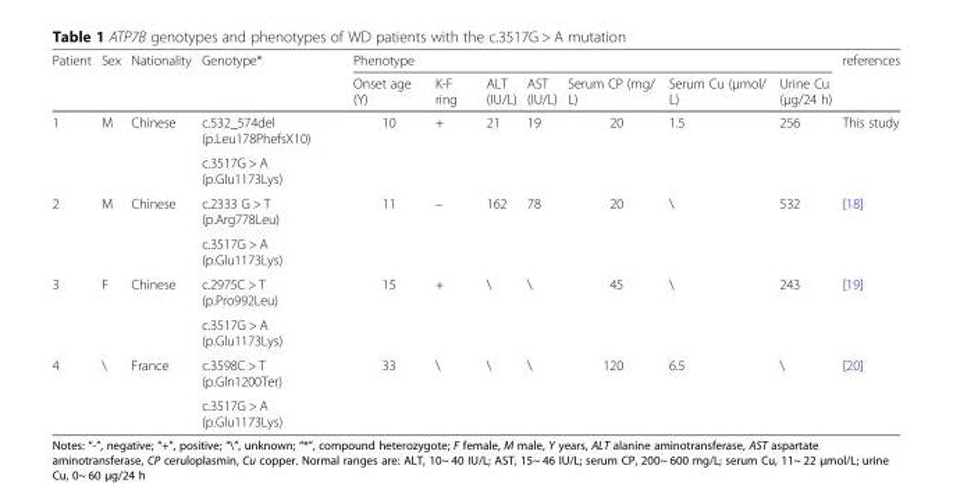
<table><thead><tr><td rowspan="2">Patient</td><td rowspan="2">Sex</td><td rowspan="2">Nationality</td><td rowspan="2">Genotype*</td><td colspan="7">Phenotype</td><td rowspan="2">references</td></tr><tr><td>Onset age (Y)</td><td>K-F ring</td><td>ALT (IU/L)</td><td>AST (IU/L)</td><td>Serum CP (mg/ L)</td><td>Serum Cu (μmol/ L)</td><td>Urine Cu (μg/24 h)</td></tr></thead><tbody><tr><td rowspan="2">1</td><td rowspan="2">M</td><td rowspan="2">Chinese</td><td>c.532_574del (p.Leu178PhefsX10)</td><td rowspan="2">10</td><td rowspan="2">+</td><td rowspan="2">21</td><td rowspan="2">19</td><td rowspan="2">20</td><td rowspan="2">1.5</td><td rowspan="2">256</td><td rowspan="2">This study</td></tr><tr><td>c.3517G &gt; A (p.Glu1173Lys)</td></tr><tr><td rowspan="2">2</td><td rowspan="2">M</td><td rowspan="2">Chinese</td><td>c.2333 G &gt; T (p.Arg778Leu)</td><td rowspan="2">11</td><td rowspan="2">–</td><td rowspan="2">162</td><td rowspan="2">78</td><td rowspan="2">20</td><td rowspan="2">\</td><td rowspan="2">532</td><td rowspan="2">[18]</td></tr><tr><td>c.3517G &gt; A (p.Glu1173Lys)</td></tr><tr><td rowspan="2">3</td><td rowspan="2">F</td><td rowspan="2">Chinese</td><td>c.2975C &gt; T (p.Pro992Leu)</td><td rowspan="2">15</td><td rowspan="2">+</td><td rowspan="2">\</td><td rowspan="2">\</td><td rowspan="2">45</td><td rowspan="2">\</td><td rowspan="2">243</td><td rowspan="2">[19]</td></tr><tr><td>c.3517G &gt; A (p.Glu1173Lys)</td></tr><tr><td rowspan="2">4</td><td rowspan="2">\</td><td rowspan="2">France</td><td>c.3598C &gt; T (p.Gln1200Ter)</td><td rowspan="2">33</td><td rowspan="2">\</td><td rowspan="2">\</td><td rowspan="2">\</td><td rowspan="2">120</td><td rowspan="2">6.5</td><td rowspan="2">\</td><td rowspan="2">[20]</td></tr><tr><td>c.3517G &gt; A (p.Glu1173Lys)</td></tr></tbody></table>